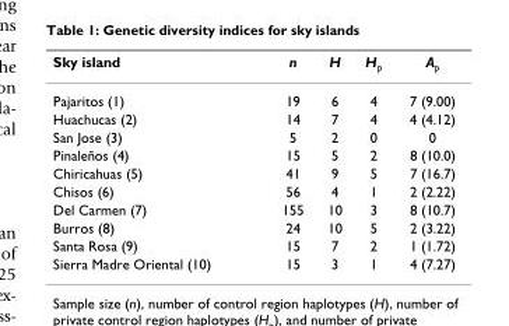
<table><thead><tr><td>Sky island</td><td>n</td><td>H</td><td>H<sub>p</sub></td><td>A<sub>p</sub></td></tr></thead><tbody><tr><td>Pajaritos (1)</td><td>19</td><td>6</td><td>4</td><td>7 (9.00)</td></tr><tr><td>Huachucas (2)</td><td>14</td><td>7</td><td>4</td><td>4 (4.12)</td></tr><tr><td>San Jose (3)</td><td>5</td><td>2</td><td>0</td><td>0</td></tr><tr><td>Pinaleños (4)</td><td>15</td><td>5</td><td>2</td><td>8 (10.0)</td></tr><tr><td>Chiricahuas (5)</td><td>41</td><td>9</td><td>5</td><td>7 (16.7)</td></tr><tr><td>Chisos (6)</td><td>56</td><td>4</td><td>1</td><td>2 (2.22)</td></tr><tr><td>Del Carmen (7)</td><td>155</td><td>10</td><td>3</td><td>8 (10.7)</td></tr><tr><td>Burros (8)</td><td>24</td><td>10</td><td>5</td><td>2 (3.22)</td></tr><tr><td>Santa Rosa (9)</td><td>15</td><td>7</td><td>2</td><td>1 (1.72)</td></tr><tr><td>Sierra Madre Oriental (10)</td><td>15</td><td>3</td><td>1</td><td>4 (7.27)</td></tr></tbody></table>